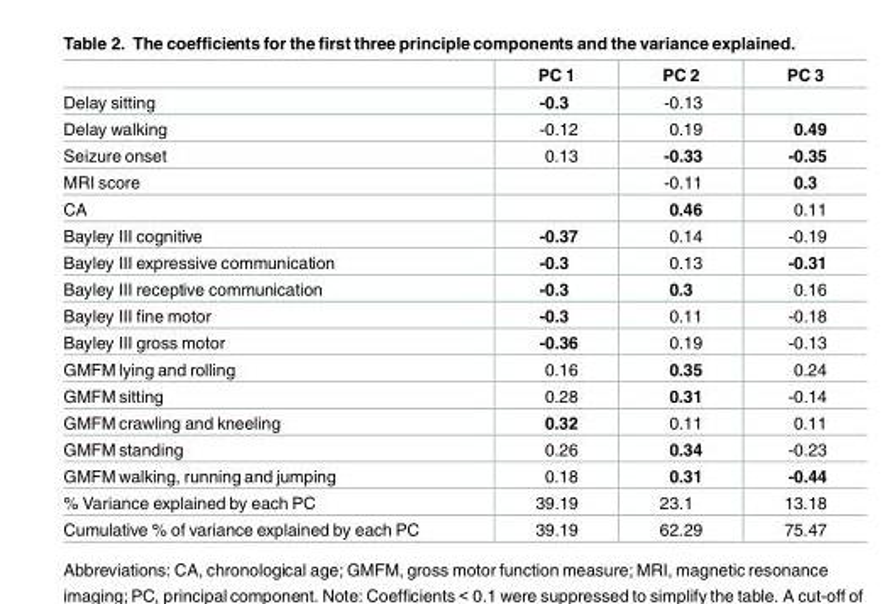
<table><thead><tr><td></td><td>PC 1</td><td>PC 2</td><td>PC 3</td></tr></thead><tbody><tr><td>Delay sitting</td><td>-0.3</td><td>-0.13</td><td></td></tr><tr><td>Delay walking</td><td>-0.12</td><td>0.19</td><td>0.49</td></tr><tr><td>Seizure onset</td><td>0.13</td><td>-0.33</td><td>-0.35</td></tr><tr><td>MRI score</td><td></td><td>-0.11</td><td>0.3</td></tr><tr><td>CA</td><td></td><td>0.46</td><td>0.11</td></tr><tr><td>Bayley III cognitive</td><td>-0.37</td><td>0.14</td><td>-0.19</td></tr><tr><td>Bayley III expressive communication</td><td>-0.3</td><td>0.13</td><td>-0.31</td></tr><tr><td>Bayley III receptive communication</td><td>-0.3</td><td>0.3</td><td>0.16</td></tr><tr><td>Bayley III fine motor</td><td>-0.3</td><td>0.11</td><td>-0.18</td></tr><tr><td>Bayley III gross motor</td><td>-0.36</td><td>0.19</td><td>-0.13</td></tr><tr><td>GMFM lying and rolling</td><td>0.16</td><td>0.35</td><td>0.24</td></tr><tr><td>GMFM sitting</td><td>0.28</td><td>0.31</td><td>-0.14</td></tr><tr><td>GMFM crawling and kneeling</td><td>0.32</td><td>0.11</td><td>0.11</td></tr><tr><td>GMFM standing</td><td>0.26</td><td>0.34</td><td>-0.23</td></tr><tr><td>GMFM walking, running and jumping</td><td>0.18</td><td>0.31</td><td>-0.44</td></tr><tr><td>% Variance explained by each PC</td><td>39.19</td><td>23.1</td><td>13.18</td></tr><tr><td>Cumulative % of variance explained by each PC</td><td>39.19</td><td>62.29</td><td>75.47</td></tr></tbody></table>